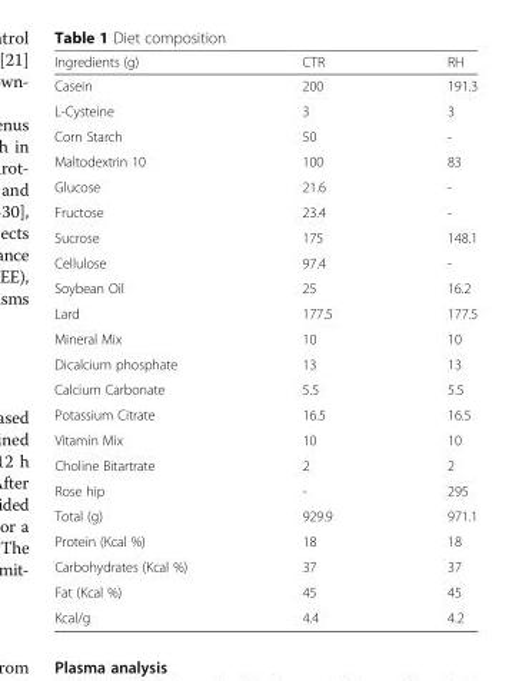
<table><thead><tr><td>Ingredients (g)</td><td>CTR</td><td>RH</td></tr></thead><tbody><tr><td>Casein</td><td>200</td><td>191.3</td></tr><tr><td>L-Cysteine</td><td>3</td><td>3</td></tr><tr><td>Corn Starch</td><td>50</td><td>-</td></tr><tr><td>Maltodextrin 10</td><td>100</td><td>83</td></tr><tr><td>Glucose</td><td>21.6</td><td>-</td></tr><tr><td>Fructose</td><td>23.4</td><td>-</td></tr><tr><td>Sucrose</td><td>175</td><td>148.1</td></tr><tr><td>Cellulose</td><td>97.4</td><td>-</td></tr><tr><td>Soybean Oil</td><td>25</td><td>16.2</td></tr><tr><td>Lard</td><td>177.5</td><td>177.5</td></tr><tr><td>Mineral Mix</td><td>10</td><td>10</td></tr><tr><td>Dicalcium phosphate</td><td>13</td><td>13</td></tr><tr><td>Calcium Carbonate</td><td>5.5</td><td>5.5</td></tr><tr><td>Potassium Citrate</td><td>16.5</td><td>16.5</td></tr><tr><td>Vitamin Mix</td><td>10</td><td>10</td></tr><tr><td>Choline Bitartrate</td><td>2</td><td>2</td></tr><tr><td>Rose hip</td><td>-</td><td>295</td></tr><tr><td>Total (g)</td><td>929.9</td><td>971.1</td></tr><tr><td>Protein (Kcal %)</td><td>18</td><td>18</td></tr><tr><td>Carbohydrates (Kcal %)</td><td>37</td><td>37</td></tr><tr><td>Fat (Kcal %)</td><td>45</td><td>45</td></tr><tr><td>Kcal/g</td><td>4.4</td><td>4.2</td></tr></tbody></table>